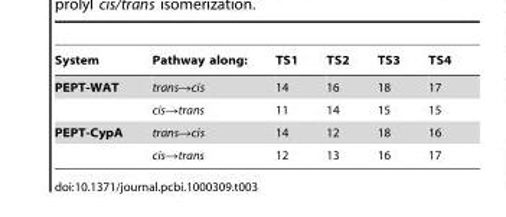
<table><thead><tr><td>System</td><td>Pathway along:</td><td>TS1</td><td>TS2</td><td>TS3</td><td>TS4</td></tr></thead><tbody><tr><td rowspan="2">PEPT-WAT</td><td>trans→cis</td><td>14</td><td>16</td><td>18</td><td>17</td></tr><tr><td>cis→trans</td><td>11</td><td>14</td><td>15</td><td>15</td></tr><tr><td rowspan="2">PEPT-CypA</td><td>trans→cis</td><td>14</td><td>12</td><td>18</td><td>16</td></tr><tr><td>cis→trans</td><td>12</td><td>13</td><td>16</td><td>17</td></tr></tbody></table>